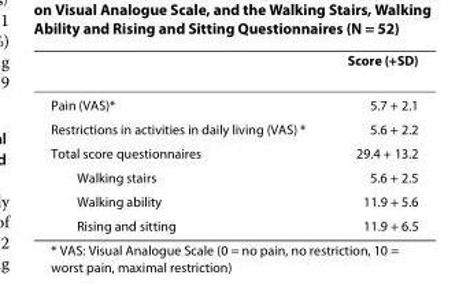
<table><thead><tr><td></td><td>Score (+SD)</td></tr></thead><tbody><tr><td>Pain (VAS)*</td><td>5.7 + 2.1</td></tr><tr><td>Restrictions in activities in daily living (VAS) *</td><td>5.6 + 2.2</td></tr><tr><td>Total score questionnaires</td><td>29.4 + 13.2</td></tr><tr><td>Walking stairs</td><td>5.6 + 2.5</td></tr><tr><td>Walking ability</td><td>11.9 + 5.6</td></tr><tr><td>Rising and sitting</td><td>11.9 + 6.5</td></tr></tbody></table>